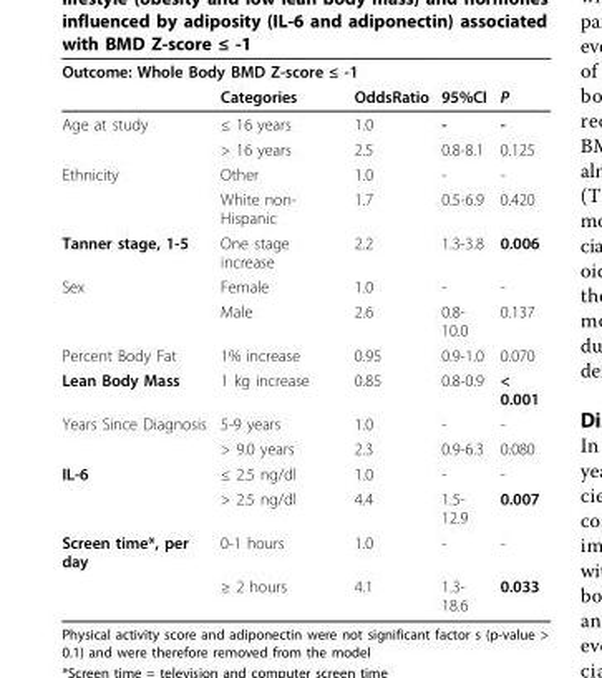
<table><thead><tr><td colspan="5">Outcome: Whole Body BMD Z-score ≤ -1</td></tr><tr><td></td><td>Categories</td><td>OddsRatio</td><td>95%CI</td><td>P</td></tr></thead><tbody><tr><td rowspan="2">Age at study</td><td>≤ 16 years</td><td>1.0</td><td>-</td><td>-</td></tr><tr><td>&gt; 16 years</td><td>2.5</td><td>0.8-8.1</td><td>0.125</td></tr><tr><td rowspan="2">Ethnicity</td><td>Other</td><td>1.0</td><td>-</td><td>-</td></tr><tr><td>White non- Hispanic</td><td>1.7</td><td>0.5-6.9</td><td>0.420</td></tr><tr><td>Tanner stage, 1-5</td><td>One stage increase</td><td>2.2</td><td>1.3-3.8</td><td>0.006</td></tr><tr><td rowspan="2">Sex</td><td>Female</td><td>1.0</td><td>-</td><td>-</td></tr><tr><td>Male</td><td>2.6</td><td>0.8- 10.0</td><td>0.137</td></tr><tr><td>Percent Body Fat</td><td>1% increase</td><td>0.95</td><td>0.9-1.0</td><td>0.070</td></tr><tr><td>Lean Body Mass</td><td>1 kg increase</td><td>0.85</td><td>0.8-0.9</td><td>&lt; 0.001</td></tr><tr><td rowspan="2">Years Since Diagnosis</td><td>5-9 years</td><td>1.0</td><td>-</td><td>-</td></tr><tr><td>&gt; 9.0 years</td><td>2.3</td><td>0.9-6.3</td><td>0.080</td></tr><tr><td rowspan="2">IL-6</td><td>≤ 2.5 ng/dl</td><td>1.0</td><td>-</td><td>-</td></tr><tr><td>&gt; 2.5 ng/dl</td><td>4.4</td><td>1.5- 12.9</td><td>0.007</td></tr><tr><td rowspan="2">Screen time*, per day</td><td>0-1 hours</td><td>1.0</td><td>-</td><td>-</td></tr><tr><td>≥ 2 hours</td><td>4.1</td><td>1.3- 18.6</td><td>0.033</td></tr></tbody></table>